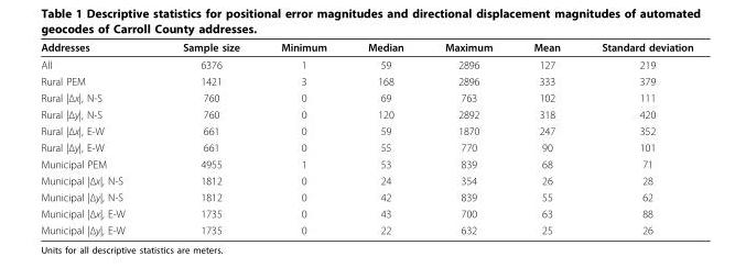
<table><thead><tr><td>Addresses</td><td>Sample size</td><td>Minimum</td><td>Median</td><td>Maximum</td><td>Mean</td><td>Standard deviation</td></tr></thead><tbody><tr><td>All</td><td>6376</td><td>1</td><td>59</td><td>2896</td><td>127</td><td>219</td></tr><tr><td>Rural PEM</td><td>1421</td><td>3</td><td>168</td><td>2896</td><td>333</td><td>379</td></tr><tr><td>Rural |Δx|, N-S</td><td>760</td><td>0</td><td>69</td><td>763</td><td>102</td><td>111</td></tr><tr><td>Rural |Δy|, N-S</td><td>760</td><td>0</td><td>120</td><td>2892</td><td>318</td><td>420</td></tr><tr><td>Rural |Δx|, E-W</td><td>661</td><td>0</td><td>59</td><td>1870</td><td>247</td><td>352</td></tr><tr><td>Rural |Δy|, E-W</td><td>661</td><td>0</td><td>55</td><td>770</td><td>90</td><td>101</td></tr><tr><td>Municipal PEM</td><td>4955</td><td>1</td><td>53</td><td>839</td><td>68</td><td>71</td></tr><tr><td>Municipal |Δx|, N-S</td><td>1812</td><td>0</td><td>24</td><td>354</td><td>26</td><td>28</td></tr><tr><td>Municipal |Δy|, N-S</td><td>1812</td><td>0</td><td>42</td><td>839</td><td>55</td><td>62</td></tr><tr><td>Municipal |Δx|, E-W</td><td>1735</td><td>0</td><td>43</td><td>700</td><td>63</td><td>88</td></tr><tr><td>Municipal |Δy|, E-W</td><td>1735</td><td>0</td><td>22</td><td>632</td><td>25</td><td>26</td></tr></tbody></table>